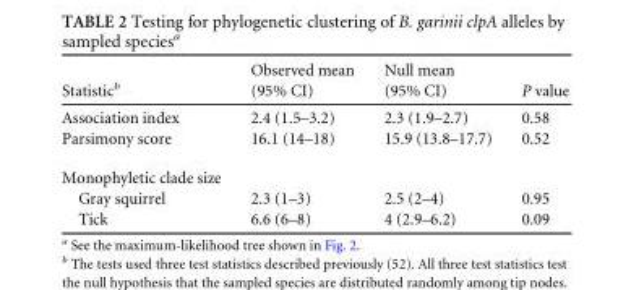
<table><thead><tr><td>Statistic<sup>b</sup></td><td>Observed mean (95% CI)</td><td>Null mean (95% CI)</td><td>P value</td></tr></thead><tbody><tr><td>Association index</td><td>2.4 (1.5–3.2)</td><td>2.3 (1.9–2.7)</td><td>0.58</td></tr><tr><td>Parsimony score</td><td>16.1 (14–18)</td><td>15.9 (13.8–17.7)</td><td>0.52</td></tr><tr><td colspan="4">Monophyletic clade size</td></tr><tr><td>Gray squirrel</td><td>2.3 (1–3)</td><td>2.5 (2–4)</td><td>0.95</td></tr><tr><td>Tick</td><td>6.6 (6–8)</td><td>4 (2.9–6.2)</td><td>0.09</td></tr></tbody></table>